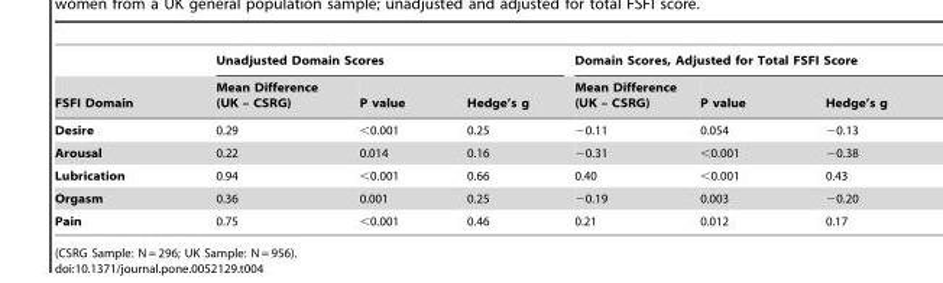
<table><thead><tr><td rowspan="2">FSFI Domain</td><td colspan="3">Unadjusted Domain Scores</td><td colspan="3">Domain Scores, Adjusted for Total FSFI Score</td></tr><tr><td>Mean Difference (UK – CSRG)</td><td>P value</td><td>Hedge’s g</td><td>Mean Difference (UK – CSRG)</td><td>P value</td><td>Hedge’s g</td></tr></thead><tbody><tr><td>Desire</td><td>0.29</td><td>&lt;0.001</td><td>0.25</td><td>−0.11</td><td>0.054</td><td>−0.13</td></tr><tr><td>Arousal</td><td>0.22</td><td>0.014</td><td>0.16</td><td>−0.31</td><td>&lt;0.001</td><td>−0.38</td></tr><tr><td>Lubrication</td><td>0.94</td><td>&lt;0.001</td><td>0.66</td><td>0.40</td><td>&lt;0.001</td><td>0.43</td></tr><tr><td>Orgasm</td><td>0.36</td><td>0.001</td><td>0.25</td><td>−0.19</td><td>0.003</td><td>−0.20</td></tr><tr><td>Pain</td><td>0.75</td><td>&lt;0.001</td><td>0.46</td><td>0.21</td><td>0.012</td><td>0.17</td></tr></tbody></table>